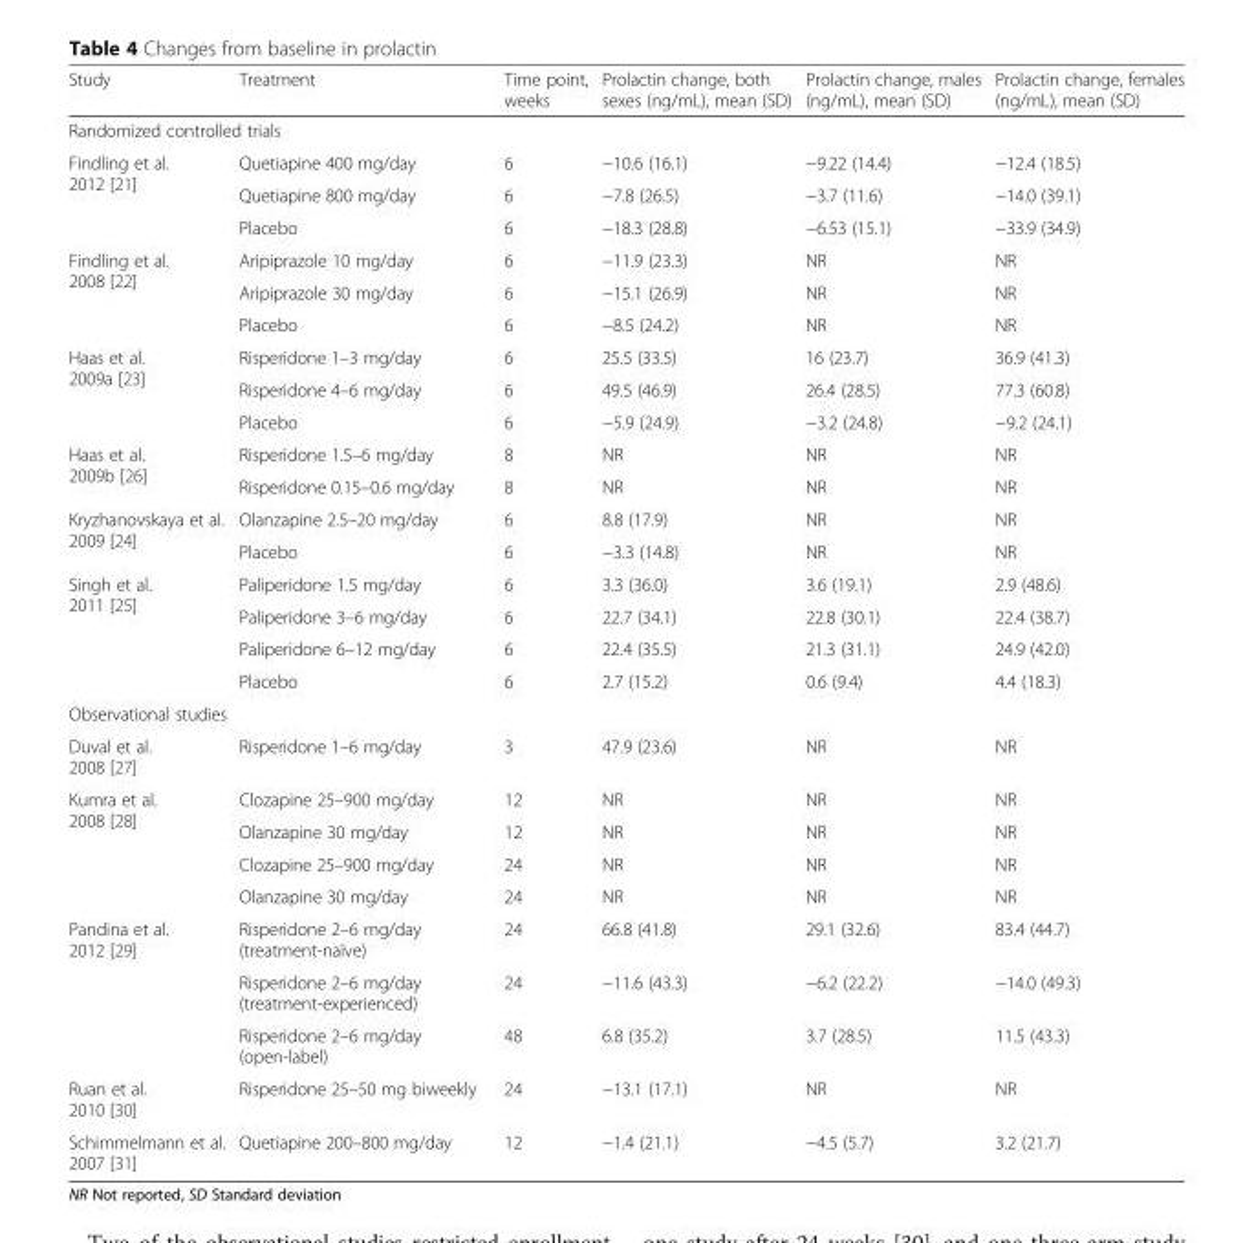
<table><thead><tr><td>Study</td><td>Treatment</td><td>Time point, weeks</td><td>Prolactin change, both sexes (ng/mL), mean (SD)</td><td>Prolactin change, males (ng/mL), mean (SD)</td><td>Prolactin change, females (ng/mL), mean (SD)</td></tr></thead><tbody><tr><td colspan="6">Randomized controlled trials</td></tr><tr><td rowspan="3">Findling et al. 2012 [21]</td><td>Quetiapine 400 mg/day</td><td>6</td><td>−10.6 (16.1)</td><td>−9.22 (14.4)</td><td>−12.4 (18.5)</td></tr><tr><td>Quetiapine 800 mg/day</td><td>6</td><td>−7.8 (26.5)</td><td>−3.7 (11.6)</td><td>−14.0 (39.1)</td></tr><tr><td>Placebo</td><td>6</td><td>−18.3 (28.8)</td><td>−6.53 (15.1)</td><td>−33.9 (34.9)</td></tr><tr><td rowspan="3">Findling et al. 2008 [22]</td><td>Aripiprazole 10 mg/day</td><td>6</td><td>−11.9 (23.3)</td><td>NR</td><td>NR</td></tr><tr><td>Aripiprazole 30 mg/day</td><td>6</td><td>−15.1 (26.9)</td><td>NR</td><td>NR</td></tr><tr><td>Placebo</td><td>6</td><td>−8.5 (24.2)</td><td>NR</td><td>NR</td></tr><tr><td rowspan="3">Haas et al. 2009a [23]</td><td>Risperidone 1–3 mg/day</td><td>6</td><td>25.5 (33.5)</td><td>16 (23.7)</td><td>36.9 (41.3)</td></tr><tr><td>Risperidone 4–6 mg/day</td><td>6</td><td>49.5 (46.9)</td><td>26.4 (28.5)</td><td>77.3 (60.8)</td></tr><tr><td>Placebo</td><td>6</td><td>−5.9 (24.9)</td><td>−3.2 (24.8)</td><td>−9.2 (24.1)</td></tr><tr><td rowspan="2">Haas et al. 2009b [26]</td><td>Risperidone 1.5–6 mg/day</td><td>8</td><td>NR</td><td>NR</td><td>NR</td></tr><tr><td>Risperidone 0.15–0.6 mg/day</td><td>8</td><td>NR</td><td>NR</td><td>NR</td></tr><tr><td rowspan="2">Kryzhanovskaya et al. 2009 [24]</td><td>Olanzapine 2.5–20 mg/day</td><td>6</td><td>8.8 (17.9)</td><td>NR</td><td>NR</td></tr><tr><td>Placebo</td><td>6</td><td>−3.3 (14.8)</td><td>NR</td><td>NR</td></tr><tr><td rowspan="4">Singh et al. 2011 [25]</td><td>Paliperidone 1.5 mg/day</td><td>6</td><td>3.3 (36.0)</td><td>3.6 (19.1)</td><td>2.9 (48.6)</td></tr><tr><td>Paliperidone 3–6 mg/day</td><td>6</td><td>22.7 (34.1)</td><td>22.8 (30.1)</td><td>22.4 (38.7)</td></tr><tr><td>Paliperidone 6–12 mg/day</td><td>6</td><td>22.4 (35.5)</td><td>21.3 (31.1)</td><td>24.9 (42.0)</td></tr><tr><td>Placebo</td><td>6</td><td>2.7 (15.2)</td><td>0.6 (9.4)</td><td>4.4 (18.3)</td></tr><tr><td colspan="6">Observational studies</td></tr><tr><td>Duval et al. 2008 [27]</td><td>Risperidone 1–6 mg/day</td><td>3</td><td>47.9 (23.6)</td><td>NR</td><td>NR</td></tr><tr><td rowspan="4">Kumra et al. 2008 [28]</td><td>Clozapine 25–900 mg/day</td><td>12</td><td>NR</td><td>NR</td><td>NR</td></tr><tr><td>Olanzapine 30 mg/day</td><td>12</td><td>NR</td><td>NR</td><td>NR</td></tr><tr><td>Clozapine 25–900 mg/day</td><td>24</td><td>NR</td><td>NR</td><td>NR</td></tr><tr><td>Olanzapine 30 mg/day</td><td>24</td><td>NR</td><td>NR</td><td>NR</td></tr><tr><td rowspan="3">Pandina et al. 2012 [29]</td><td>Risperidone 2–6 mg/day (treatment-naïve)</td><td>24</td><td>66.8 (41.8)</td><td>29.1 (32.6)</td><td>83.4 (44.7)</td></tr><tr><td>Risperidone 2–6 mg/day (treatment-experienced)</td><td>24</td><td>−11.6 (43.3)</td><td>−6.2 (22.2)</td><td>−14.0 (49.3)</td></tr><tr><td>Risperidone 2–6 mg/day (open-label)</td><td>48</td><td>6.8 (35.2)</td><td>3.7 (28.5)</td><td>11.5 (43.3)</td></tr><tr><td>Ruan et al. 2010 [30]</td><td>Risperidone 25–50 mg biweekly</td><td>24</td><td>−13.1 (17.1)</td><td>NR</td><td>NR</td></tr><tr><td>Schimmelmann et al. 2007 [31]</td><td>Quetiapine 200–800 mg/day</td><td>12</td><td>−1.4 (21.1)</td><td>−4.5 (5.7)</td><td>3.2 (21.7)</td></tr></tbody></table>